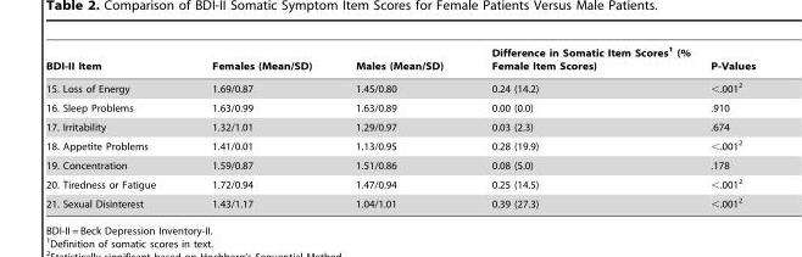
<table><thead><tr><td>BDI-II Item</td><td>Females (Mean/SD)</td><td>Males (Mean/SD)</td><td>Difference in Somatic Item Scores<sup>1</sup> (% Female Item Scores)</td><td>P-Values</td></tr></thead><tbody><tr><td>15. Loss of Energy</td><td>1.69/0.87</td><td>1.45/0.80</td><td>0.24 (14.2)</td><td>&lt;.001<sup>2</sup></td></tr><tr><td>16. Sleep Problems</td><td>1.63/0.99</td><td>1.63/0.89</td><td>0.00 (0.0)</td><td>.910</td></tr><tr><td>17. Irritability</td><td>1.32/1.01</td><td>1.29/0.97</td><td>0.03 (2.3)</td><td>.674</td></tr><tr><td>18. Appetite Problems</td><td>1.41/0.01</td><td>1.13/0.95</td><td>0.28 (19.9)</td><td>&lt;.001<sup>2</sup></td></tr><tr><td>19. Concentration</td><td>1.59/0.87</td><td>1.51/0.86</td><td>0.08 (5.0)</td><td>.178</td></tr><tr><td>20. Tiredness or Fatigue</td><td>1.72/0.94</td><td>1.47/0.94</td><td>0.25 (14.5)</td><td>&lt;.001<sup>2</sup></td></tr><tr><td>21. Sexual Disinterest</td><td>1.43/1.17</td><td>1.04/1.01</td><td>0.39 (27.3)</td><td>&lt;.001<sup>2</sup></td></tr></tbody></table>